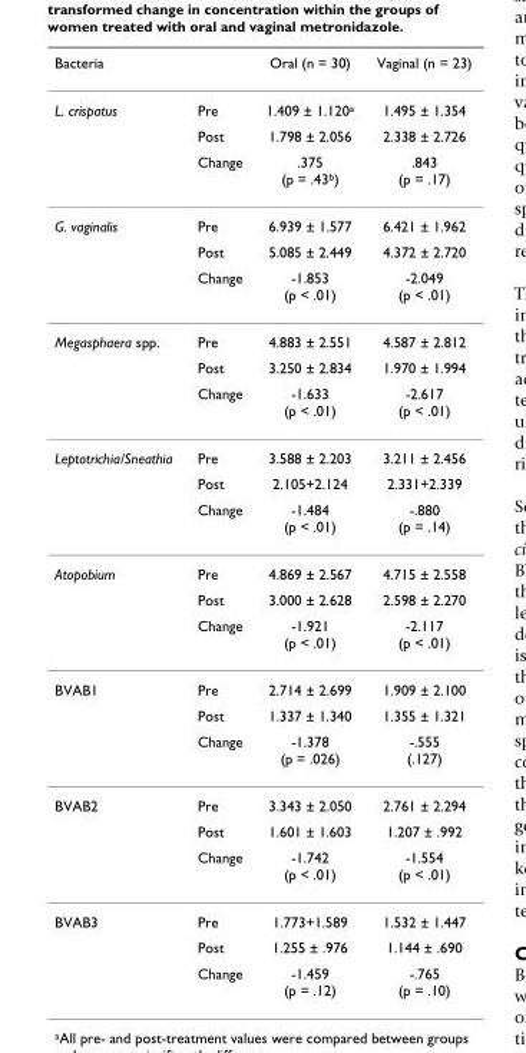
<table><thead><tr><td>Bacteria</td><td></td><td>Oral (n = 30)</td><td>Vaginal (n = 23)</td></tr></thead><tbody><tr><td rowspan="3">L. crispatus</td><td>Pre</td><td>1.409 ± 1.120<sup>a</sup></td><td>1.495 ± 1.354</td></tr><tr><td>Post</td><td>1.798 ± 2.056</td><td>2.338 ± 2.726</td></tr><tr><td>Change</td><td>.375 (p = .43<sup>b</sup>)</td><td>.843 (p = .17)</td></tr><tr><td rowspan="3">G. vaginalis</td><td>Pre</td><td>6.939 ± 1.577</td><td>6.421 ± 1.962</td></tr><tr><td>Post</td><td>5.085 ± 2.449</td><td>4.372 ± 2.720</td></tr><tr><td>Change</td><td>-1.853 (p &lt; .01)</td><td>-2.049 (p &lt; .01)</td></tr><tr><td rowspan="3">Megasphaera spp.</td><td>Pre</td><td>4.883 ± 2.551</td><td>4.587 ± 2.812</td></tr><tr><td>Post</td><td>3.250 ± 2.834</td><td>1.970 ± 1.994</td></tr><tr><td>Change</td><td>-1.633 (p &lt; .01)</td><td>-2.617 (p &lt; .01)</td></tr><tr><td rowspan="3">Leptotrichia/Sneathia</td><td>Pre</td><td>3.588 ± 2.203</td><td>3.211 ± 2.456</td></tr><tr><td>Post</td><td>2.105+2.124</td><td>2.331+2.339</td></tr><tr><td>Change</td><td>-1.484 (p &lt; .01)</td><td>-.880 (p = .14)</td></tr><tr><td rowspan="3">Atopobium</td><td>Pre</td><td>4.869 ± 2.567</td><td>4.715 ± 2.558</td></tr><tr><td>Post</td><td>3.000 ± 2.628</td><td>2.598 ± 2.270</td></tr><tr><td>Change</td><td>-1.921 (p &lt; .01)</td><td>-2.117 (p &lt; .01)</td></tr><tr><td rowspan="3">BVAB1</td><td>Pre</td><td>2.714 ± 2.699</td><td>1.909 ± 2.100</td></tr><tr><td>Post</td><td>1.337 ± 1.340</td><td>1.355 ± 1.321</td></tr><tr><td>Change</td><td>-1.378 (p = .026)</td><td>-.555 (.127)</td></tr><tr><td rowspan="3">BVAB2</td><td>Pre</td><td>3.343 ± 2.050</td><td>2.761 ± 2.294</td></tr><tr><td>Post</td><td>1.601 ± 1.603</td><td>1.207 ± .992</td></tr><tr><td>Change</td><td>-1.742 (p &lt; .01)</td><td>-1.554 (p &lt; .01)</td></tr><tr><td rowspan="3">BVAB3</td><td>Pre</td><td>1.773+1.589</td><td>1.532 ± 1.447</td></tr><tr><td>Post</td><td>1.255 ± .976</td><td>1.144 ± .690</td></tr><tr><td>Change</td><td>-1.459 (p = .12)</td><td>-.765 (p = .10)</td></tr></tbody></table>